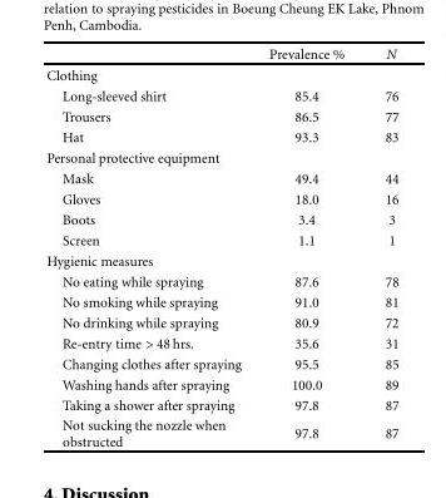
<table><thead><tr><td></td><td>Prevalence %</td><td>N</td></tr></thead><tbody><tr><td colspan="3">Clothing</td></tr><tr><td>Long-sleeved shirt</td><td>85.4</td><td>76</td></tr><tr><td>Trousers</td><td>86.5</td><td>77</td></tr><tr><td>Hat</td><td>93.3</td><td>83</td></tr><tr><td colspan="3">Personal protective equipment</td></tr><tr><td>Mask</td><td>49.4</td><td>44</td></tr><tr><td>Gloves</td><td>18.0</td><td>16</td></tr><tr><td>Boots</td><td>3.4</td><td>3</td></tr><tr><td>Screen</td><td>1.1</td><td>1</td></tr><tr><td colspan="3">Hygienic measures</td></tr><tr><td>No eating while spraying</td><td>87.6</td><td>78</td></tr><tr><td>No smoking while spraying</td><td>91.0</td><td>81</td></tr><tr><td>No drinking while spraying</td><td>80.9</td><td>72</td></tr><tr><td>Re-entry time &gt; 48 hrs.</td><td>35.6</td><td>31</td></tr><tr><td>Changing clothes after spraying</td><td>95.5</td><td>85</td></tr><tr><td>Washing hands after spraying</td><td>100.0</td><td>89</td></tr><tr><td>Taking a shower after spraying</td><td>97.8</td><td>87</td></tr><tr><td>Not sucking the nozzle when obstructed</td><td>97.8</td><td>87</td></tr></tbody></table>